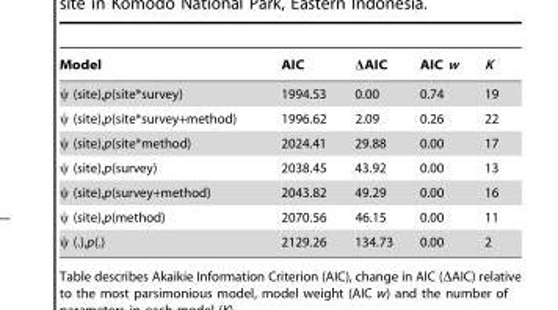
<table><thead><tr><td>Model</td><td>AIC</td><td>ΔAIC</td><td>AIC w</td><td>K</td></tr></thead><tbody><tr><td>ψ (site),p(site*survey)</td><td>1994.53</td><td>0.00</td><td>0.74</td><td>19</td></tr><tr><td>ψ (site),p(site*survey+method)</td><td>1996.62</td><td>2.09</td><td>0.26</td><td>22</td></tr><tr><td>ψ (site),p(site*method)</td><td>2024.41</td><td>29.88</td><td>0.00</td><td>17</td></tr><tr><td>ψ (site),p(survey)</td><td>2038.45</td><td>43.92</td><td>0.00</td><td>13</td></tr><tr><td>ψ (site),p(survey+method)</td><td>2043.82</td><td>49.29</td><td>0.00</td><td>16</td></tr><tr><td>ψ (site),p(method)</td><td>2070.56</td><td>46.15</td><td>0.00</td><td>11</td></tr><tr><td>ψ (.),p(.)</td><td>2129.26</td><td>134.73</td><td>0.00</td><td>2</td></tr></tbody></table>